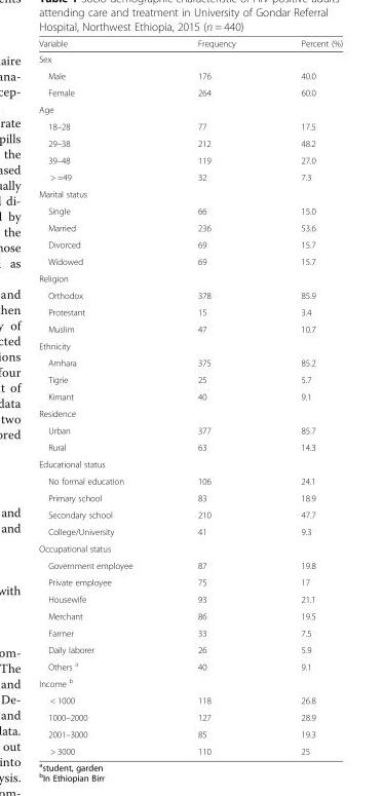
<table><thead><tr><td>Variable</td><td>Frequency</td><td>Percent (%)</td></tr></thead><tbody><tr><td colspan="3">Sex</td></tr><tr><td>Male</td><td>176</td><td>40.0</td></tr><tr><td>Female</td><td>264</td><td>60.0</td></tr><tr><td colspan="3">Age</td></tr><tr><td>18–28</td><td>77</td><td>17.5</td></tr><tr><td>29–38</td><td>212</td><td>48.2</td></tr><tr><td>39–48</td><td>119</td><td>27.0</td></tr><tr><td>&gt; =49</td><td>32</td><td>7.3</td></tr><tr><td colspan="3">Marital status</td></tr><tr><td>Single</td><td>66</td><td>15.0</td></tr><tr><td>Married</td><td>236</td><td>53.6</td></tr><tr><td>Divorced</td><td>69</td><td>15.7</td></tr><tr><td>Widowed</td><td>69</td><td>15.7</td></tr><tr><td colspan="3">Religion</td></tr><tr><td>Orthodox</td><td>378</td><td>85.9</td></tr><tr><td>Protestant</td><td>15</td><td>3.4</td></tr><tr><td>Muslim</td><td>47</td><td>10.7</td></tr><tr><td colspan="3">Ethnicity</td></tr><tr><td>Amhara</td><td>375</td><td>85.2</td></tr><tr><td>Tigrie</td><td>25</td><td>5.7</td></tr><tr><td>Kimant</td><td>40</td><td>9.1</td></tr><tr><td colspan="3">Residence</td></tr><tr><td>Urban</td><td>377</td><td>85.7</td></tr><tr><td>Rural</td><td>63</td><td>14.3</td></tr><tr><td colspan="3">Educational status</td></tr><tr><td>No formal education</td><td>106</td><td>24.1</td></tr><tr><td>Primary school</td><td>83</td><td>18.9</td></tr><tr><td>Secondary school</td><td>210</td><td>47.7</td></tr><tr><td>College/University</td><td>41</td><td>9.3</td></tr><tr><td colspan="3">Occupational status</td></tr><tr><td>Government employee</td><td>87</td><td>19.8</td></tr><tr><td>Private employee</td><td>75</td><td>17</td></tr><tr><td>Housewife</td><td>93</td><td>21.1</td></tr><tr><td>Merchant</td><td>86</td><td>19.5</td></tr><tr><td>Farmer</td><td>33</td><td>7.5</td></tr><tr><td>Daily laborer</td><td>26</td><td>5.9</td></tr><tr><td>Others <sup>a</sup></td><td>40</td><td>9.1</td></tr><tr><td colspan="3">Income <sup>b</sup></td></tr><tr><td>&lt; 1000</td><td>118</td><td>26.8</td></tr><tr><td>1000–2000</td><td>127</td><td>28.9</td></tr><tr><td>2001–3000</td><td>85</td><td>19.3</td></tr><tr><td>&gt; 3000</td><td>110</td><td>25</td></tr></tbody></table>